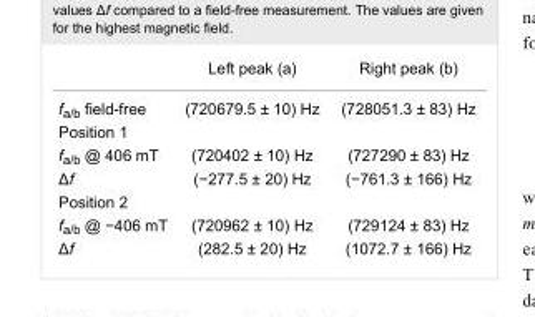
<table><thead><tr><td></td><td>Left peak (a)</td><td>Right peak (b)</td></tr></thead><tbody><tr><td>f<sub>a/b</sub> field-free</td><td>(720679.5 ± 10) Hz</td><td>(728051.3 ± 83) Hz</td></tr><tr><td colspan="3">Position 1</td></tr><tr><td>f<sub>a/b</sub> @ 406 mT</td><td>(720402 ± 10) Hz</td><td>(727290 ± 83) Hz</td></tr><tr><td>Δf</td><td>(−277.5 ± 20) Hz</td><td>(−761.3 ± 166) Hz</td></tr><tr><td colspan="3">Position 2</td></tr><tr><td>f<sub>a/b</sub> @ −406 mT</td><td>(720962 ± 10) Hz</td><td>(729124 ± 83) Hz</td></tr><tr><td>Δf</td><td>(282.5 ± 20) Hz</td><td>(1072.7 ± 166) Hz</td></tr></tbody></table>